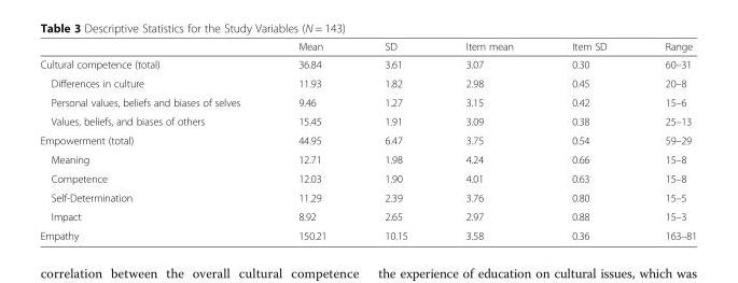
<table><thead><tr><td></td><td>Mean</td><td>SD</td><td>Item mean</td><td>Item SD</td><td>Range</td></tr></thead><tbody><tr><td>Cultural competence (total)</td><td>36.84</td><td>3.61</td><td>3.07</td><td>0.30</td><td>60–31</td></tr><tr><td>Differences in culture</td><td>11.93</td><td>1.82</td><td>2.98</td><td>0.45</td><td>20–8</td></tr><tr><td>Personal values, beliefs and biases of selves</td><td>9.46</td><td>1.27</td><td>3.15</td><td>0.42</td><td>15–6</td></tr><tr><td>Values, beliefs, and biases of others</td><td>15.45</td><td>1.91</td><td>3.09</td><td>0.38</td><td>25–13</td></tr><tr><td>Empowerment (total)</td><td>44.95</td><td>6.47</td><td>3.75</td><td>0.54</td><td>59–29</td></tr><tr><td>Meaning</td><td>12.71</td><td>1.98</td><td>4.24</td><td>0.66</td><td>15–8</td></tr><tr><td>Competence</td><td>12.03</td><td>1.90</td><td>4.01</td><td>0.63</td><td>15–8</td></tr><tr><td>Self-Determination</td><td>11.29</td><td>2.39</td><td>3.76</td><td>0.80</td><td>15–5</td></tr><tr><td>Impact</td><td>8.92</td><td>2.65</td><td>2.97</td><td>0.88</td><td>15–3</td></tr><tr><td>Empathy</td><td>150.21</td><td>10.15</td><td>3.58</td><td>0.36</td><td>163–81</td></tr></tbody></table>